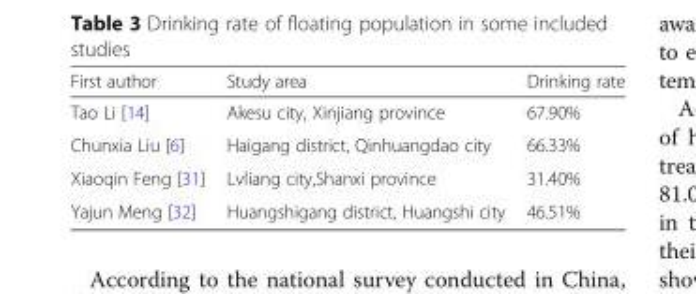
<table><thead><tr><td>First author</td><td>Study area</td><td>Drinking rate</td></tr></thead><tbody><tr><td>Tao Li [14]</td><td>Akesu city, Xinjiang province</td><td>67.90%</td></tr><tr><td>Chunxia Liu [6]</td><td>Haigang district, Qinhuangdao city</td><td>66.33%</td></tr><tr><td>Xiaoqin Feng [31]</td><td>Lvliang city,Shanxi province</td><td>31.40%</td></tr><tr><td>Yajun Meng [32]</td><td>Huangshigang district, Huangshi city</td><td>46.51%</td></tr></tbody></table>